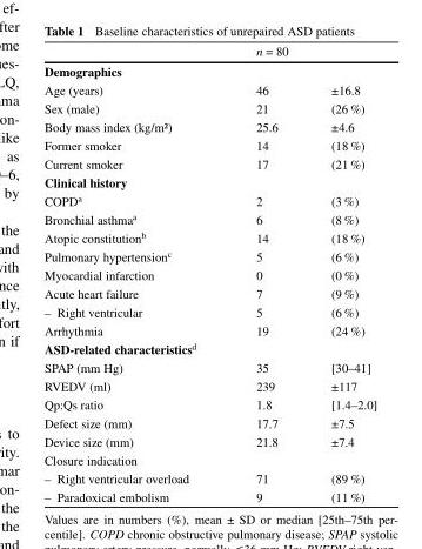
<table><thead><tr><td></td><td colspan="2">n = 80</td></tr><tr><td colspan="3">Demographics</td></tr><tr><td>Age (years)</td><td>46</td><td>±16.8</td></tr></thead><tbody><tr><td>Sex (male)</td><td>21</td><td>(26 %)</td></tr><tr><td>Body mass index (kg/m²)</td><td>25.6</td><td>±4.6</td></tr><tr><td>Former smoker</td><td>14</td><td>(18 %)</td></tr><tr><td>Current smoker</td><td>17</td><td>(21 %)</td></tr><tr><td colspan="3">Clinical history</td></tr><tr><td>COPD<sup>a</sup></td><td>2</td><td>(3 %)</td></tr><tr><td>Bronchial asthma<sup>a</sup></td><td>6</td><td>(8 %)</td></tr><tr><td>Atopic constitution<sup>b</sup></td><td>14</td><td>(18 %)</td></tr><tr><td>Pulmonary hypertension<sup>c</sup></td><td>5</td><td>(6 %)</td></tr><tr><td>Myocardial infarction</td><td>0</td><td>(0 %)</td></tr><tr><td>Acute heart failure</td><td>7</td><td>(9 %)</td></tr><tr><td>– Right ventricular</td><td>5</td><td>(6 %)</td></tr><tr><td>Arrhythmia</td><td>19</td><td>(24 %)</td></tr><tr><td colspan="3">ASD-related characteristics<sup>d</sup></td></tr><tr><td>SPAP (mm Hg)</td><td>35</td><td>[30–41]</td></tr><tr><td>RVEDV (ml)</td><td>239</td><td>±117</td></tr><tr><td>Qp:Qs ratio</td><td>1.8</td><td>[1.4–2.0]</td></tr><tr><td>Defect size (mm)</td><td>17.7</td><td>±7.5</td></tr><tr><td>Device size (mm)</td><td>21.8</td><td>±7.4</td></tr><tr><td colspan="3">Closure indication</td></tr><tr><td>– Right ventricular overload</td><td>71</td><td>(89 %)</td></tr><tr><td>– Paradoxical embolism</td><td>9</td><td>(11 %)</td></tr></tbody></table>